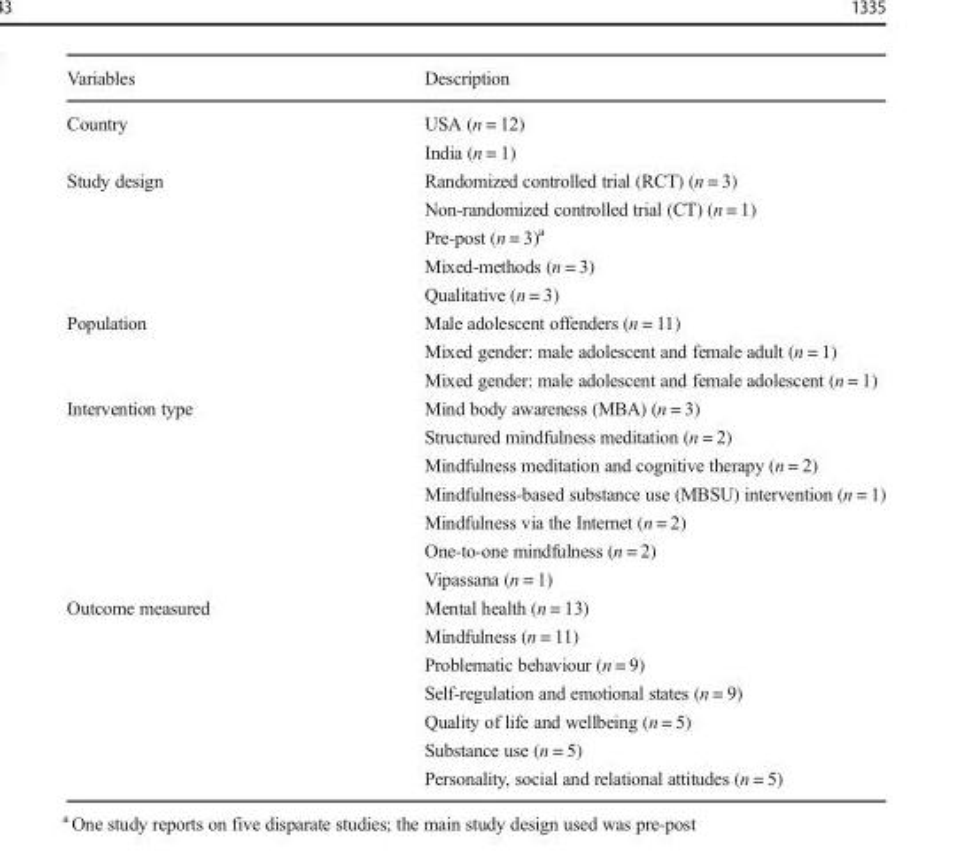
<table><thead><tr><td>Variables</td><td>Description</td></tr></thead><tbody><tr><td rowspan="2">Country</td><td>USA (n = 12)</td></tr><tr><td>India (n = 1)</td></tr><tr><td rowspan="5">Study design</td><td>Randomized controlled trial (RCT) (n = 3)</td></tr><tr><td>Non-randomized controlled trial (CT) (n = 1)</td></tr><tr><td>Pre-post (n = 3)<sup>a</sup></td></tr><tr><td>Mixed-methods (n = 3)</td></tr><tr><td>Qualitative (n = 3)</td></tr><tr><td rowspan="3">Population</td><td>Male adolescent offenders (n = 11)</td></tr><tr><td>Mixed gender: male adolescent and female adult (n = 1)</td></tr><tr><td>Mixed gender: male adolescent and female adolescent (n = 1)</td></tr><tr><td rowspan="7">Intervention type</td><td>Mind body awareness (MBA) (n = 3)</td></tr><tr><td>Structured mindfulness meditation (n = 2)</td></tr><tr><td>Mindfulness meditation and cognitive therapy (n = 2)</td></tr><tr><td>Mindfulness-based substance use (MBSU) intervention (n = 1)</td></tr><tr><td>Mindfulness via the Internet (n = 2)</td></tr><tr><td>One-to-one mindfulness (n = 2)</td></tr><tr><td>Vipassana (n = 1)</td></tr><tr><td rowspan="7">Outcome measured</td><td>Mental health (n = 13)</td></tr><tr><td>Mindfulness (n = 11)</td></tr><tr><td>Problematic behaviour (n = 9)</td></tr><tr><td>Self-regulation and emotional states (n = 9)</td></tr><tr><td>Quality of life and wellbeing (n = 5)</td></tr><tr><td>Substance use (n = 5)</td></tr><tr><td>Personality, social and relational attitudes (n = 5)</td></tr></tbody></table>